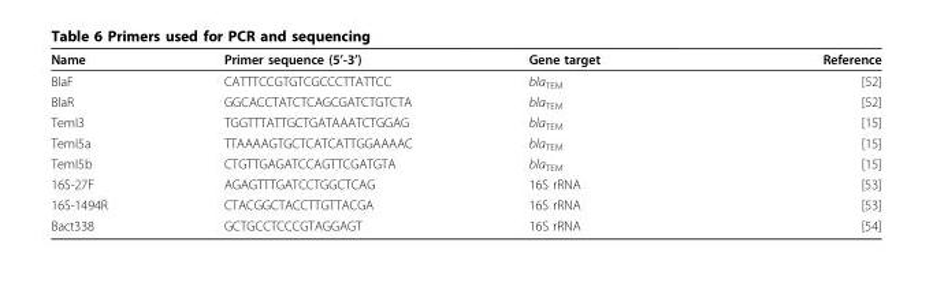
<table><thead><tr><td>Name</td><td>Primer sequence (5’-3’)</td><td>Gene target</td><td>Reference</td></tr></thead><tbody><tr><td>BlaF</td><td>CATTTCCGTGTCGCCCTTATTCC</td><td>bla<sub>TEM</sub></td><td>[52]</td></tr><tr><td>BlaR</td><td>GGCACCTATCTCAGCGATCTGTCTA</td><td>bla<sub>TEM</sub></td><td>[52]</td></tr><tr><td>TemI3</td><td>TGGTTTATTGCTGATAAATCTGGAG</td><td>bla<sub>TEM</sub></td><td>[15]</td></tr><tr><td>TemI5a</td><td>TTAAAAGTGCTCATCATTGGAAAAC</td><td>bla<sub>TEM</sub></td><td>[15]</td></tr><tr><td>TemI5b</td><td>CTGTTGAGATCCAGTTCGATGTA</td><td>bla<sub>TEM</sub></td><td>[15]</td></tr><tr><td>16S-27F</td><td>AGAGTTTGATCCTGGCTCAG</td><td>16S rRNA</td><td>[53]</td></tr><tr><td>16S-1494R</td><td>CTACGGCTACCTTGTTACGA</td><td>16S rRNA</td><td>[53]</td></tr><tr><td>Bact338</td><td>GCTGCCTCCCGTAGGAGT</td><td>16S rRNA</td><td>[54]</td></tr></tbody></table>